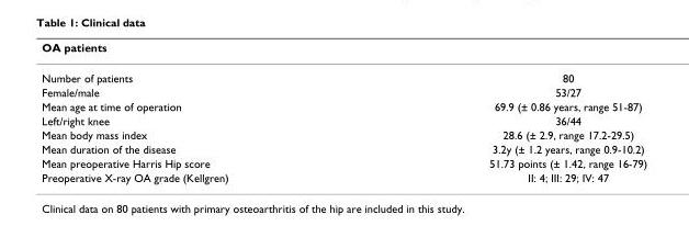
<table><thead><tr><td>OA patients</td><td></td></tr></thead><tbody><tr><td>Number of patients</td><td>80</td></tr><tr><td>Female/male</td><td>53/27</td></tr><tr><td>Mean age at time of operation</td><td>69.9 (± 0.86 years, range 51-87)</td></tr><tr><td>Left/right knee</td><td>36/44</td></tr><tr><td>Mean body mass index</td><td>28.6 (± 2.9, range 17.2-29.5)</td></tr><tr><td>Mean duration of the disease</td><td>3.2y (± 1.2 years, range 0.9-10.2)</td></tr><tr><td>Mean preoperative Harris Hip score</td><td>51.73 points (± 1.42, range 16-79)</td></tr><tr><td>Preoperative X-ray OA grade (Kellgren)</td><td>II: 4; III: 29; IV: 47</td></tr></tbody></table>